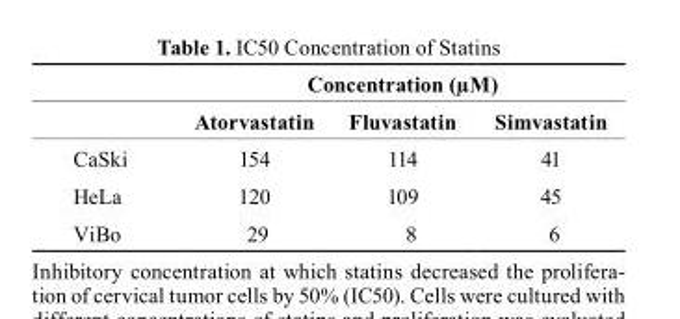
<table><thead><tr><td colspan="4">concentration (µM)</td></tr><tr><td></td><td>Atorvastatin</td><td>Fluvastatin</td><td>simvastatin</td></tr></thead><tbody><tr><td>CaSki</td><td>154</td><td>114</td><td>41</td></tr><tr><td>HeLa</td><td>120</td><td>109</td><td>45</td></tr><tr><td>ViBo</td><td>29</td><td>8</td><td>6</td></tr></tbody></table>